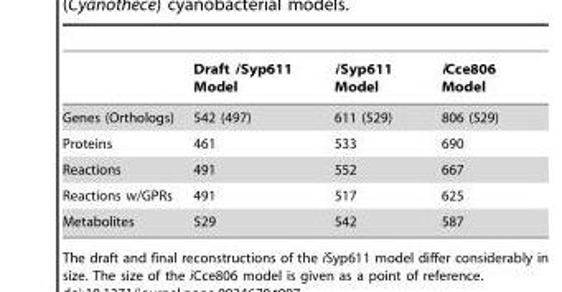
<table><thead><tr><td></td><td>Draft iSyp611 Model</td><td>iSyp611 Model</td><td>iCce806 Model</td></tr></thead><tbody><tr><td>Genes (Orthologs)</td><td>542 (497)</td><td>611 (529)</td><td>806 (529)</td></tr><tr><td>Proteins</td><td>461</td><td>533</td><td>690</td></tr><tr><td>Reactions</td><td>491</td><td>552</td><td>667</td></tr><tr><td>Reactions w/GPRs</td><td>491</td><td>517</td><td>625</td></tr><tr><td>Metabolites</td><td>529</td><td>542</td><td>587</td></tr></tbody></table>